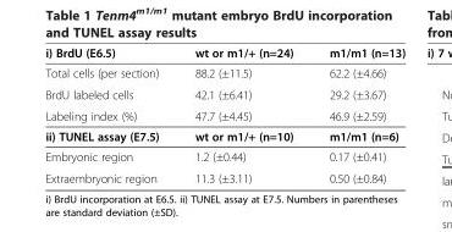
<table><tbody><tr><td>i) BrdU (E6.5)</td><td>wt or m1/+ (n=24)</td><td>m1/m1 (n=13)</td></tr><tr><td>Total cells (per section)</td><td>88.2 (±11.5)</td><td>62.2 (±4.66)</td></tr><tr><td>BrdU labeled cells</td><td>42.1 (±6.41)</td><td>29.2 (±3.67)</td></tr><tr><td>Labeling index (%)</td><td>47.7 (±4.45)</td><td>46.9 (±2.59)</td></tr><tr><td>ii) TUNEL assay (E7.5)</td><td>wt or m1/+ (n=10)</td><td>m1/m1 (n=6)</td></tr><tr><td>Embryonic region</td><td>1.2 (±0.44)</td><td>0.17 (±0.41)</td></tr><tr><td>Extraembryonic region</td><td>11.3 (±3.11)</td><td>0.50 (±0.84)</td></tr></tbody></table>